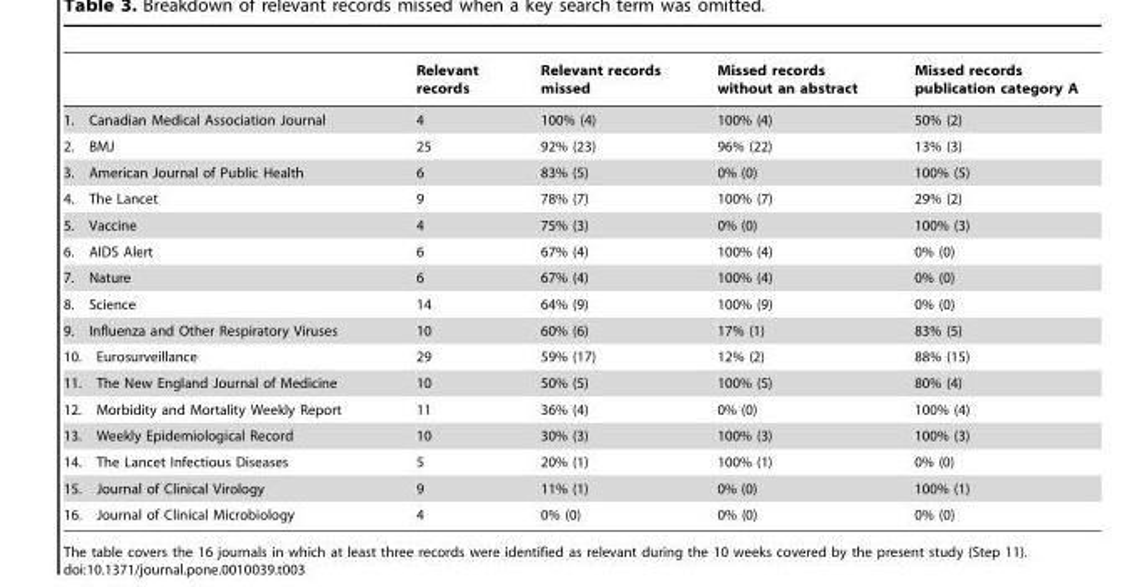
<table><thead><tr><td></td><td>Relevant records</td><td>Relevant records missed</td><td>Missed records without an abstract</td><td>Missed records publication category A</td></tr></thead><tbody><tr><td>1. Canadian Medical Association Journal</td><td>4</td><td>100% (4)</td><td>100% (4)</td><td>50% (2)</td></tr><tr><td>2. BMJ</td><td>25</td><td>92% (23)</td><td>96% (22)</td><td>13% (3)</td></tr><tr><td>3. American Journal of Public Health</td><td>6</td><td>83% (5)</td><td>0% (0)</td><td>100% (5)</td></tr><tr><td>4. The Lancet</td><td>9</td><td>78% (7)</td><td>100% (7)</td><td>29% (2)</td></tr><tr><td>5. Vaccine</td><td>4</td><td>75% (3)</td><td>0% (0)</td><td>100% (3)</td></tr><tr><td>6. AIDS Alert</td><td>6</td><td>67% (4)</td><td>100% (4)</td><td>0% (0)</td></tr><tr><td>7. Nature</td><td>6</td><td>67% (4)</td><td>100% (4)</td><td>0% (0)</td></tr><tr><td>8. Science</td><td>14</td><td>64% (9)</td><td>100% (9)</td><td>0% (0)</td></tr><tr><td>9. Influenza and Other Respiratory Viruses</td><td>10</td><td>60% (6)</td><td>17% (1)</td><td>83% (5)</td></tr><tr><td>10. Eurosurveillance</td><td>29</td><td>59% (17)</td><td>12% (2)</td><td>88% (15)</td></tr><tr><td>11. The New England Journal of Medicine</td><td>10</td><td>50% (5)</td><td>100% (5)</td><td>80% (4)</td></tr><tr><td>12. Morbidity and Mortality Weekly Report</td><td>11</td><td>36% (4)</td><td>0% (0)</td><td>100% (4)</td></tr><tr><td>13. Weekly Epidemiological Record</td><td>10</td><td>30% (3)</td><td>100% (3)</td><td>100% (3)</td></tr><tr><td>14. The Lancet Infectious Diseases</td><td>5</td><td>20% (1)</td><td>100% (1)</td><td>0% (0)</td></tr><tr><td>15. Journal of Clinical Virology</td><td>9</td><td>11% (1)</td><td>0% (0)</td><td>100% (1)</td></tr><tr><td>16. Journal of Clinical Microbiology</td><td>4</td><td>0% (0)</td><td>0% (0)</td><td>0% (0)</td></tr></tbody></table>